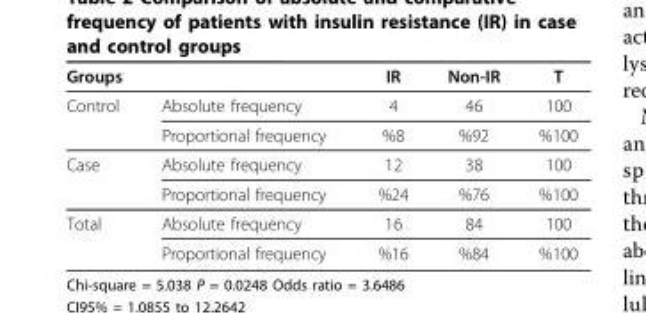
<table><thead><tr><td>Groups</td><td></td><td>IR</td><td>Non-IR</td><td>T</td></tr></thead><tbody><tr><td rowspan="2">Control</td><td>Absolute frequency</td><td>4</td><td>46</td><td>100</td></tr><tr><td>Proportional frequency</td><td>%8</td><td>%92</td><td>%100</td></tr><tr><td rowspan="2">Case</td><td>Absolute frequency</td><td>12</td><td>38</td><td>100</td></tr><tr><td>Proportional frequency</td><td>%24</td><td>%76</td><td>%100</td></tr><tr><td rowspan="2">Total</td><td>Absolute frequency</td><td>16</td><td>84</td><td>100</td></tr><tr><td>Proportional frequency</td><td>%16</td><td>%84</td><td>%100</td></tr></tbody></table>